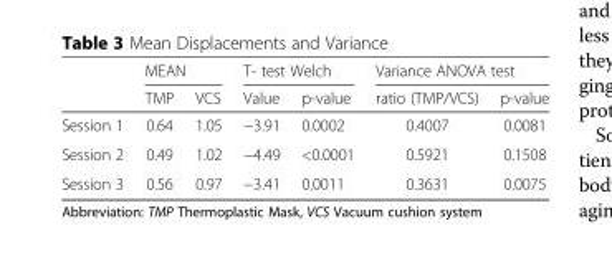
<table><thead><tr><td rowspan="2"></td><td colspan="2">MEAN</td><td colspan="2">T- test Welch</td><td colspan="2">Variance ANOVA test</td></tr><tr><td>TMP</td><td>VCS</td><td>Value</td><td>p-value</td><td>ratio (TMP/VCS)</td><td>p-value</td></tr></thead><tbody><tr><td>Session 1</td><td>0.64</td><td>1.05</td><td>−3.91</td><td>0.0002</td><td>0.4007</td><td>0.0081</td></tr><tr><td>Session 2</td><td>0.49</td><td>1.02</td><td>−4.49</td><td>&lt;0.0001</td><td>0.5921</td><td>0.1508</td></tr><tr><td>Session 3</td><td>0.56</td><td>0.97</td><td>−3.41</td><td>0.0011</td><td>0.3631</td><td>0.0075</td></tr></tbody></table>